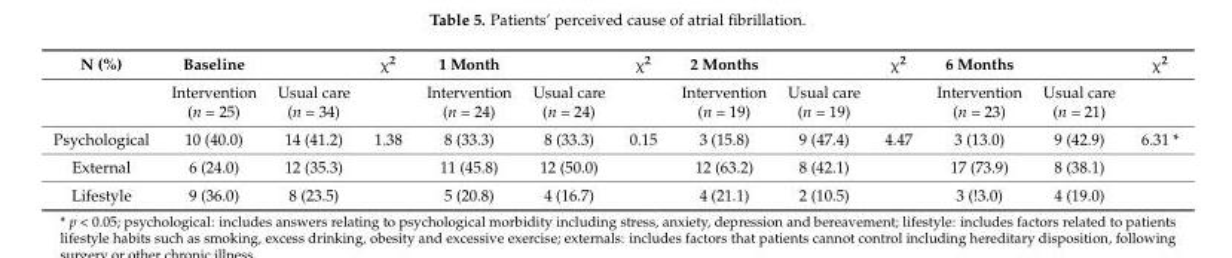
<table><thead><tr><td>N (%)</td><td>Baseline</td><td></td><td>χ<sup>2</sup></td><td>1 Month</td><td></td><td>χ<sup>2</sup></td><td>2 Months</td><td></td><td>χ<sup>2</sup></td><td>6 Months</td><td></td><td>χ<sup>2</sup></td></tr></thead><tbody><tr><td></td><td>Intervention (n = 25)</td><td>Usual care (n = 34)</td><td></td><td>Intervention (n = 24)</td><td>Usual care (n = 24)</td><td></td><td>Intervention (n = 19)</td><td>Usual care (n = 19)</td><td></td><td>Intervention (n = 23)</td><td>Usual care (n = 21)</td><td></td></tr><tr><td>Psychological</td><td>10 (40.0)</td><td>14 (41.2)</td><td>1.38</td><td>8 (33.3)</td><td>8 (33.3)</td><td>0.15</td><td>3 (15.8)</td><td>9 (47.4)</td><td>4.47</td><td>3 (13.0)</td><td>9 (42.9)</td><td>6.31 *</td></tr><tr><td>External</td><td>6 (24.0)</td><td>12 (35.3)</td><td></td><td>11 (45.8)</td><td>12 (50.0)</td><td></td><td>12 (63.2)</td><td>8 (42.1)</td><td></td><td>17 (73.9)</td><td>8 (38.1)</td><td></td></tr><tr><td>Lifestyle</td><td>9 (36.0)</td><td>8 (23.5)</td><td></td><td>5 (20.8)</td><td>4 (16.7)</td><td></td><td>4 (21.1)</td><td>2 (10.5)</td><td></td><td>3 (!3.0)</td><td>4 (19.0)</td><td></td></tr></tbody></table>